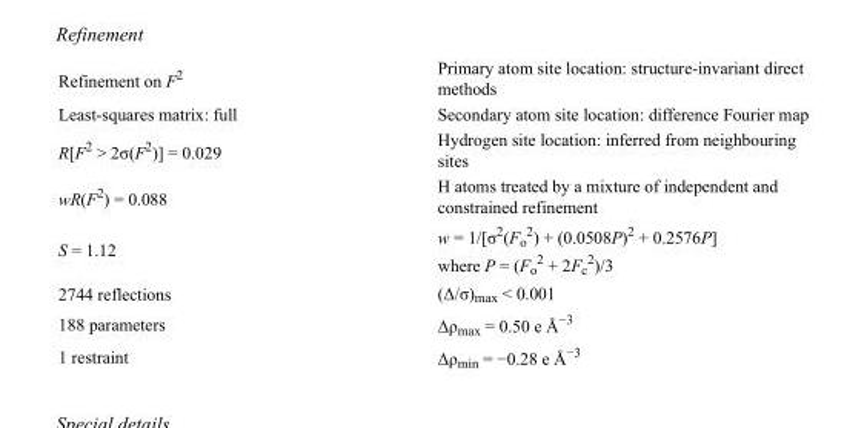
<table><tbody><tr><td>Refinement on F<sup>2</sup></td><td>Primary atom site location: structure-invariant direct methods</td></tr><tr><td>Least-squares matrix: full</td><td>Secondary atom site location: difference Fourier map</td></tr><tr><td>R[F<sup>2</sup> &gt; 2σ(F<sup>2</sup>)] = 0.029</td><td>Hydrogen site location: inferred from neighbouring sites</td></tr><tr><td>wR(F<sup>2</sup>) = 0.088</td><td>H atoms treated by a mixture of independent and constrained refinement</td></tr><tr><td>S = 1.12</td><td>w = 1/[σ<sup>2</sup>(F<sub>o</sub> <sup>2</sup>) + (0.0508P)<sup>2</sup> + 0.2576P] where P = (F<sub>o</sub> <sup>2</sup> + 2F<sub>c</sub> <sup>2</sup>)/3</td></tr><tr><td>2744 reflections</td><td>(Δ/σ)<sub>max</sub> &lt; 0.001</td></tr><tr><td>188 parameters</td><td>Δρ<sub>max</sub> = 0.50 e Å<sup>−3</sup></td></tr><tr><td>1 restraint</td><td>Δρ<sub>min</sub> = −0.28 e Å<sup>−3</sup></td></tr></tbody></table>